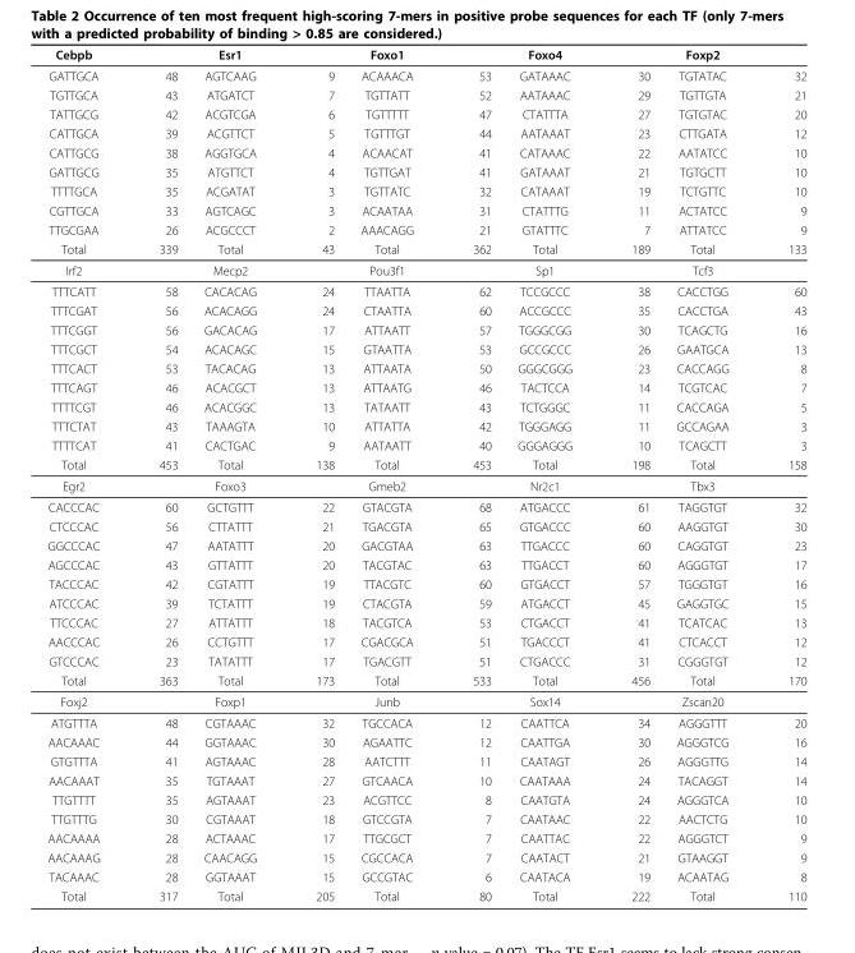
<table><thead><tr><td>Cebpb</td><td></td><td>Esr1</td><td></td><td>Foxo1</td><td></td><td>Foxo4</td><td></td><td>Foxp2</td><td></td></tr></thead><tbody><tr><td>GATTGCA</td><td>48</td><td>AGTCAAG</td><td>9</td><td>ACAAACA</td><td>53</td><td>GATAAAC</td><td>30</td><td>TGTATAC</td><td>32</td></tr><tr><td>TGTTGCA</td><td>43</td><td>ATGATCT</td><td>7</td><td>TGTTATT</td><td>52</td><td>AATAAAC</td><td>29</td><td>TGTTGTA</td><td>21</td></tr><tr><td>TATTGCG</td><td>42</td><td>ACGTCGA</td><td>6</td><td>TGTTTTT</td><td>47</td><td>CTATTTA</td><td>27</td><td>TGTGTAC</td><td>20</td></tr><tr><td>CATTGCA</td><td>39</td><td>ACGTTCT</td><td>5</td><td>TGTTTGT</td><td>44</td><td>AATAAAT</td><td>23</td><td>CTTGATA</td><td>12</td></tr><tr><td>CATTGCG</td><td>38</td><td>AGGTGCA</td><td>4</td><td>ACAACAT</td><td>41</td><td>CATAAAC</td><td>22</td><td>AATATCC</td><td>10</td></tr><tr><td>GATTGCG</td><td>35</td><td>ATGTTCT</td><td>4</td><td>TGTTGAT</td><td>41</td><td>GATAAAT</td><td>21</td><td>TGTGCTT</td><td>10</td></tr><tr><td>TTTTGCA</td><td>35</td><td>ACGATAT</td><td>3</td><td>TGTTATC</td><td>32</td><td>CATAAAT</td><td>19</td><td>TCTGTTC</td><td>10</td></tr><tr><td>CGTTGCA</td><td>33</td><td>AGTCAGC</td><td>3</td><td>ACAATAA</td><td>31</td><td>CTATTTG</td><td>11</td><td>ACTATCC</td><td>9</td></tr><tr><td>TTGCGAA</td><td>26</td><td>ACGCCCT</td><td>2</td><td>AAACAGG</td><td>21</td><td>GTATTTC</td><td>7</td><td>ATTATCC</td><td>9</td></tr><tr><td>Total</td><td>339</td><td>Total</td><td>43</td><td>Total</td><td>362</td><td>Total</td><td>189</td><td>Total</td><td>133</td></tr><tr><td>Irf2</td><td></td><td>Mecp2</td><td></td><td>Pou3f1</td><td></td><td>Sp1</td><td></td><td>Tcf3</td><td></td></tr><tr><td>TTTCATT</td><td>58</td><td>CACACAG</td><td>24</td><td>TTAATTA</td><td>62</td><td>TCCGCCC</td><td>38</td><td>CACCTGG</td><td>60</td></tr><tr><td>TTTCGAT</td><td>56</td><td>ACACAGG</td><td>24</td><td>CTAATTA</td><td>60</td><td>ACCGCCC</td><td>35</td><td>CACCTGA</td><td>43</td></tr><tr><td>TTTCGGT</td><td>56</td><td>GACACAG</td><td>17</td><td>ATTAATT</td><td>57</td><td>TGGGCGG</td><td>30</td><td>TCAGCTG</td><td>16</td></tr><tr><td>TTTCGCT</td><td>54</td><td>ACACAGC</td><td>15</td><td>GTAATTA</td><td>53</td><td>GCCGCCC</td><td>26</td><td>GAATGCA</td><td>13</td></tr><tr><td>TTTCACT</td><td>53</td><td>TACACAG</td><td>13</td><td>ATTAATA</td><td>50</td><td>GGGCGGG</td><td>23</td><td>CACCAGG</td><td>8</td></tr><tr><td>TTTCAGT</td><td>46</td><td>ACACGCT</td><td>13</td><td>ATTAATG</td><td>46</td><td>TACTCCA</td><td>14</td><td>TCGTCAC</td><td>7</td></tr><tr><td>TTTTCGT</td><td>46</td><td>ACACGGC</td><td>13</td><td>TATAATT</td><td>43</td><td>TCTGGGC</td><td>11</td><td>CACCAGA</td><td>5</td></tr><tr><td>TTTCTAT</td><td>43</td><td>TAAAGTA</td><td>10</td><td>ATTATTA</td><td>42</td><td>TGGGAGG</td><td>11</td><td>GCCAGAA</td><td>3</td></tr><tr><td>TTTTCAT</td><td>41</td><td>CACTGAC</td><td>9</td><td>AATAATT</td><td>40</td><td>GGGAGGG</td><td>10</td><td>TCAGCTT</td><td>3</td></tr><tr><td>Total</td><td>453</td><td>Total</td><td>138</td><td>Total</td><td>453</td><td>Total</td><td>198</td><td>Total</td><td>158</td></tr><tr><td>Egr2</td><td></td><td>Foxo3</td><td></td><td>Gmeb2</td><td></td><td>Nr2c1</td><td></td><td>Tbx3</td><td></td></tr><tr><td>CACCCAC</td><td>60</td><td>GCTGTTT</td><td>22</td><td>GTACGTA</td><td>68</td><td>ATGACCC</td><td>61</td><td>TAGGTGT</td><td>32</td></tr><tr><td>CTCCCAC</td><td>56</td><td>CTTATTT</td><td>21</td><td>TGACGTA</td><td>65</td><td>GTGACCC</td><td>60</td><td>AAGGTGT</td><td>30</td></tr><tr><td>GGCCCAC</td><td>47</td><td>AATATTT</td><td>20</td><td>GACGTAA</td><td>63</td><td>TTGACCC</td><td>60</td><td>CAGGTGT</td><td>23</td></tr><tr><td>AGCCCAC</td><td>43</td><td>GTTATTT</td><td>20</td><td>TACGTAC</td><td>63</td><td>TTGACCT</td><td>60</td><td>AGGGTGT</td><td>17</td></tr><tr><td>TACCCAC</td><td>42</td><td>CGTATTT</td><td>19</td><td>TTACGTC</td><td>60</td><td>GTGACCT</td><td>57</td><td>TGGGTGT</td><td>16</td></tr><tr><td>ATCCCAC</td><td>39</td><td>TCTATTT</td><td>19</td><td>CTACGTA</td><td>59</td><td>ATGACCT</td><td>45</td><td>GAGGTGC</td><td>15</td></tr><tr><td>TTCCCAC</td><td>27</td><td>ATTATTT</td><td>18</td><td>TACGTCA</td><td>53</td><td>CTGACCT</td><td>41</td><td>TCATCAC</td><td>13</td></tr><tr><td>AACCCAC</td><td>26</td><td>CCTGTTT</td><td>17</td><td>CGACGCA</td><td>51</td><td>TGACCCT</td><td>41</td><td>CTCACCT</td><td>12</td></tr><tr><td>GTCCCAC</td><td>23</td><td>TATATTT</td><td>17</td><td>TGACGTT</td><td>51</td><td>CTGACCC</td><td>31</td><td>CGGGTGT</td><td>12</td></tr><tr><td>Total</td><td>363</td><td>Total</td><td>173</td><td>Total</td><td>533</td><td>Total</td><td>456</td><td>Total</td><td>170</td></tr><tr><td>Foxj2</td><td></td><td>Foxp1</td><td></td><td>Junb</td><td></td><td>Sox14</td><td></td><td>Zscan20</td><td></td></tr><tr><td>ATGTTTA</td><td>48</td><td>CGTAAAC</td><td>32</td><td>TGCCACA</td><td>12</td><td>CAATTCA</td><td>34</td><td>AGGGTTT</td><td>20</td></tr><tr><td>AACAAAC</td><td>44</td><td>GGTAAAC</td><td>30</td><td>AGAATTC</td><td>12</td><td>CAATTGA</td><td>30</td><td>AGGGTCG</td><td>16</td></tr><tr><td>GTGTTTA</td><td>41</td><td>AGTAAAC</td><td>28</td><td>AATCTTT</td><td>11</td><td>CAATAGT</td><td>26</td><td>AGGGTTG</td><td>14</td></tr><tr><td>AACAAAT</td><td>35</td><td>TGTAAAT</td><td>27</td><td>GTCAACA</td><td>10</td><td>CAATAAA</td><td>24</td><td>TACAGGT</td><td>14</td></tr><tr><td>TTGTTTT</td><td>35</td><td>AGTAAAT</td><td>23</td><td>ACGTTCC</td><td>8</td><td>CAATGTA</td><td>24</td><td>AGGGTCA</td><td>10</td></tr><tr><td>TTGTTTG</td><td>30</td><td>CGTAAAT</td><td>18</td><td>GTCCGTA</td><td>7</td><td>CAATAAC</td><td>22</td><td>AACTCTG</td><td>10</td></tr><tr><td>AACAAAA</td><td>28</td><td>ACTAAAC</td><td>17</td><td>TTGCGCT</td><td>7</td><td>CAATTAC</td><td>22</td><td>AGGGTCT</td><td>9</td></tr><tr><td>AACAAAG</td><td>28</td><td>CAACAGG</td><td>15</td><td>CGCCACA</td><td>7</td><td>CAATACT</td><td>21</td><td>GTAAGGT</td><td>9</td></tr><tr><td>TACAAAC</td><td>28</td><td>GGTAAAT</td><td>15</td><td>GCCGTAC</td><td>6</td><td>CAATACA</td><td>19</td><td>ACAATAG</td><td>8</td></tr><tr><td>Total</td><td>317</td><td>Total</td><td>205</td><td>Total</td><td>80</td><td>Total</td><td>222</td><td>Total</td><td>110</td></tr></tbody></table>